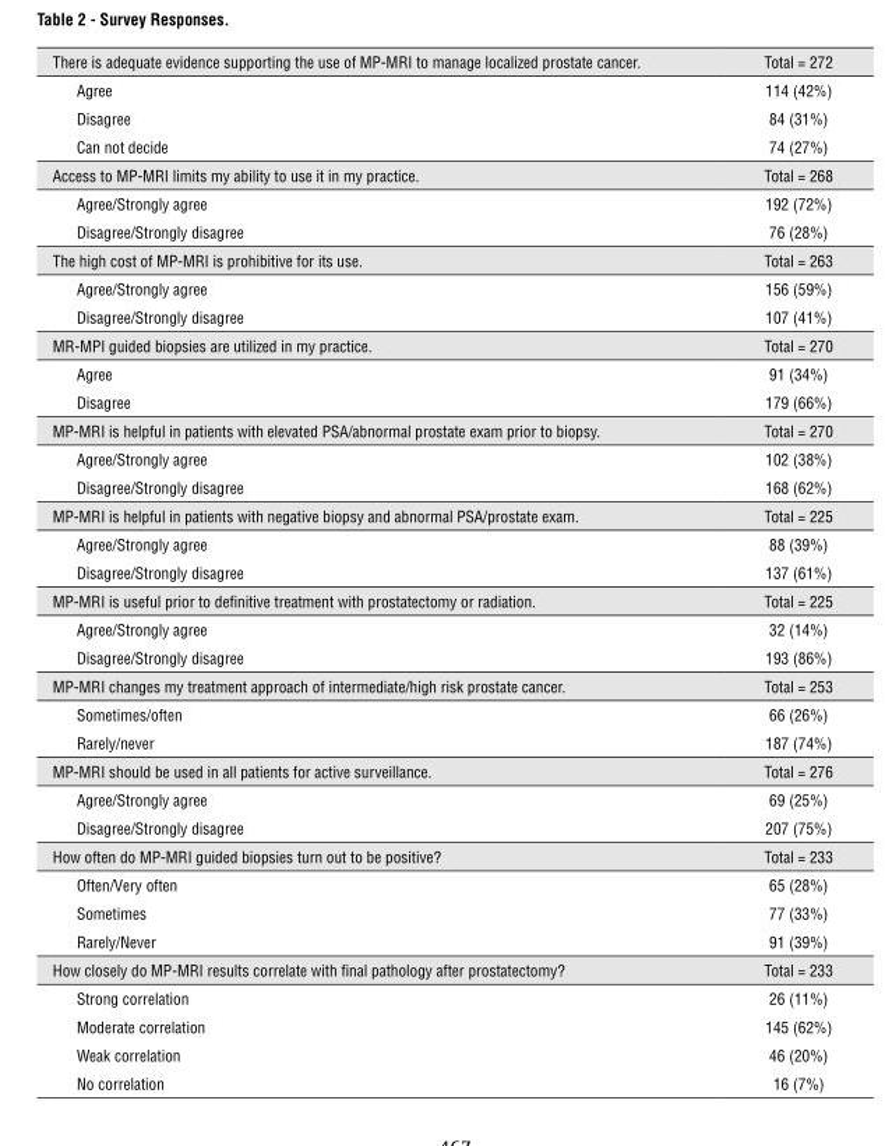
<table><thead><tr><td>There is adequate evidence supporting the use of MP-MRI to manage localized prostate cancer.</td><td>Total = 272</td></tr></thead><tbody><tr><td>Agree</td><td>114 (42%)</td></tr><tr><td>Disagree</td><td>84 (31%)</td></tr><tr><td>Can not decide</td><td>74 (27%)</td></tr><tr><td>Access to MP-MRI limits my ability to use it in my practice.</td><td>Total = 268</td></tr><tr><td>Agree/Strongly agree</td><td>192 (72%)</td></tr><tr><td>Disagree/Strongly disagree</td><td>76 (28%)</td></tr><tr><td>The high cost of MP-MRI is prohibitive for its use.</td><td>Total = 263</td></tr><tr><td>Agree/Strongly agree</td><td>156 (59%)</td></tr><tr><td>Disagree/Strongly disagree</td><td>107 (41%)</td></tr><tr><td>MR-MPI guided biopsies are utilized in my practice.</td><td>Total = 270</td></tr><tr><td>Agree</td><td>91 (34%)</td></tr><tr><td>Disagree</td><td>179 (66%)</td></tr><tr><td>MP-MRI is helpful in patients with elevated PSA/abnormal prostate exam prior to biopsy.</td><td>Total = 270</td></tr><tr><td>Agree/Strongly agree</td><td>102 (38%)</td></tr><tr><td>Disagree/Strongly disagree</td><td>168 (62%)</td></tr><tr><td>MP-MRI is helpful in patients with negative biopsy and abnormal PSA/prostate exam.</td><td>Total = 225</td></tr><tr><td>Agree/Strongly agree</td><td>88 (39%)</td></tr><tr><td>Disagree/Strongly disagree</td><td>137 (61%)</td></tr><tr><td>MP-MRI is useful prior to definitive treatment with prostatectomy or radiation.</td><td>Total = 225</td></tr><tr><td>Agree/Strongly agree</td><td>32 (14%)</td></tr><tr><td>Disagree/Strongly disagree</td><td>193 (86%)</td></tr><tr><td>MP-MRI changes my treatment approach of intermediate/high risk prostate cancer.</td><td>Total = 253</td></tr><tr><td>Sometimes/often</td><td>66 (26%)</td></tr><tr><td>Rarely/never</td><td>187 (74%)</td></tr><tr><td>MP-MRI should be used in all patients for active surveillance.</td><td>Total = 276</td></tr><tr><td>Agree/Strongly agree</td><td>69 (25%)</td></tr><tr><td>Disagree/Strongly disagree</td><td>207 (75%)</td></tr><tr><td>How often do MP-MRI guided biopsies turn out to be positive?</td><td>Total = 233</td></tr><tr><td>Often/Very often</td><td>65 (28%)</td></tr><tr><td>Sometimes</td><td>77 (33%)</td></tr><tr><td>Rarely/Never</td><td>91 (39%)</td></tr><tr><td>How closely do MP-MRI results correlate with final pathology after prostatectomy?</td><td>Total = 233</td></tr><tr><td>Strong correlation</td><td>26 (11%)</td></tr><tr><td>Moderate correlation</td><td>145 (62%)</td></tr><tr><td>Weak correlation</td><td>46 (20%)</td></tr><tr><td>No correlation</td><td>16 (7%)</td></tr></tbody></table>